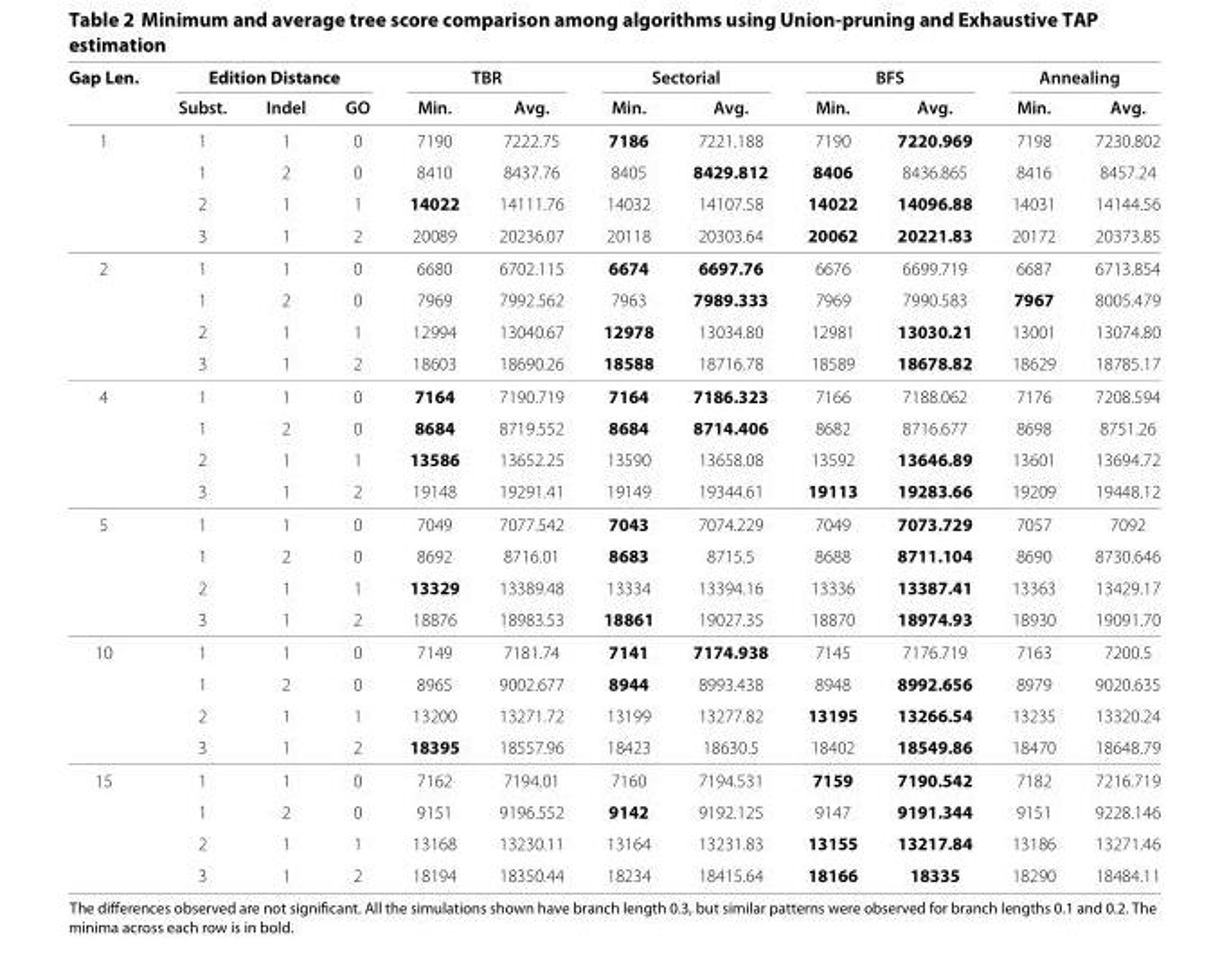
<table><thead><tr><td rowspan="2">Gap Len.</td><td colspan="3">Edition Distance</td><td colspan="2">TBR</td><td colspan="2">Sectorial</td><td colspan="2">BFS</td><td colspan="2">Annealing</td></tr><tr><td>Subst.</td><td>Indel</td><td>GO</td><td>Min.</td><td>Avg.</td><td>Min.</td><td>Avg.</td><td>Min.</td><td>Avg.</td><td>Min.</td><td>Avg.</td></tr></thead><tbody><tr><td rowspan="4">1</td><td>1</td><td>1</td><td>0</td><td>7190</td><td>7222.75</td><td>7186</td><td>7221.188</td><td>7190</td><td>7220.969</td><td>7198</td><td>7230.802</td></tr><tr><td>1</td><td>2</td><td>0</td><td>8410</td><td>8437.76</td><td>8405</td><td>8429.812</td><td>8406</td><td>8436.865</td><td>8416</td><td>8457.24</td></tr><tr><td>2</td><td>1</td><td>1</td><td>14022</td><td>14111.76</td><td>14032</td><td>14107.58</td><td>14022</td><td>14096.88</td><td>14031</td><td>14144.56</td></tr><tr><td>3</td><td>1</td><td>2</td><td>20089</td><td>20236.07</td><td>20118</td><td>20303.64</td><td>20062</td><td>20221.83</td><td>20172</td><td>20373.85</td></tr><tr><td rowspan="4">2</td><td>1</td><td>1</td><td>0</td><td>6680</td><td>6702.115</td><td>6674</td><td>6697.76</td><td>6676</td><td>6699.719</td><td>6687</td><td>6713.854</td></tr><tr><td>1</td><td>2</td><td>0</td><td>7969</td><td>7992.562</td><td>7963</td><td>7989.333</td><td>7969</td><td>7990.583</td><td>7967</td><td>8005.479</td></tr><tr><td>2</td><td>1</td><td>1</td><td>12994</td><td>13040.67</td><td>12978</td><td>13034.80</td><td>12981</td><td>13030.21</td><td>13001</td><td>13074.80</td></tr><tr><td>3</td><td>1</td><td>2</td><td>18603</td><td>18690.26</td><td>18588</td><td>18716.78</td><td>18589</td><td>18678.82</td><td>18629</td><td>18785.17</td></tr><tr><td rowspan="4">4</td><td>1</td><td>1</td><td>0</td><td>7164</td><td>7190.719</td><td>7164</td><td>7186.323</td><td>7166</td><td>7188.062</td><td>7176</td><td>7208.594</td></tr><tr><td>1</td><td>2</td><td>0</td><td>8684</td><td>8719.552</td><td>8684</td><td>8714.406</td><td>8682</td><td>8716.677</td><td>8698</td><td>8751.26</td></tr><tr><td>2</td><td>1</td><td>1</td><td>13586</td><td>13652.25</td><td>13590</td><td>13658.08</td><td>13592</td><td>13646.89</td><td>13601</td><td>13694.72</td></tr><tr><td>3</td><td>1</td><td>2</td><td>19148</td><td>19291.41</td><td>19149</td><td>19344.61</td><td>19113</td><td>19283.66</td><td>19209</td><td>19448.12</td></tr><tr><td rowspan="4">5</td><td>1</td><td>1</td><td>0</td><td>7049</td><td>7077.542</td><td>7043</td><td>7074.229</td><td>7049</td><td>7073.729</td><td>7057</td><td>7092</td></tr><tr><td>1</td><td>2</td><td>0</td><td>8692</td><td>8716.01</td><td>8683</td><td>8715.5</td><td>8688</td><td>8711.104</td><td>8690</td><td>8730.646</td></tr><tr><td>2</td><td>1</td><td>1</td><td>13329</td><td>13389.48</td><td>13334</td><td>13394.16</td><td>13336</td><td>13387.41</td><td>13363</td><td>13429.17</td></tr><tr><td>3</td><td>1</td><td>2</td><td>18876</td><td>18983.53</td><td>18861</td><td>19027.35</td><td>18870</td><td>18974.93</td><td>18930</td><td>19091.70</td></tr><tr><td rowspan="4">10</td><td>1</td><td>1</td><td>0</td><td>7149</td><td>7181.74</td><td>7141</td><td>7174.938</td><td>7145</td><td>7176.719</td><td>7163</td><td>7200.5</td></tr><tr><td>1</td><td>2</td><td>0</td><td>8965</td><td>9002.677</td><td>8944</td><td>8993.438</td><td>8948</td><td>8992.656</td><td>8979</td><td>9020.635</td></tr><tr><td>2</td><td>1</td><td>1</td><td>13200</td><td>13271.72</td><td>13199</td><td>13277.82</td><td>13195</td><td>13266.54</td><td>13235</td><td>13320.24</td></tr><tr><td>3</td><td>1</td><td>2</td><td>18395</td><td>18557.96</td><td>18423</td><td>18630.5</td><td>18402</td><td>18549.86</td><td>18470</td><td>18648.79</td></tr><tr><td rowspan="4">15</td><td>1</td><td>1</td><td>0</td><td>7162</td><td>7194.01</td><td>7160</td><td>7194.531</td><td>7159</td><td>7190.542</td><td>7182</td><td>7216.719</td></tr><tr><td>1</td><td>2</td><td>0</td><td>9151</td><td>9196.552</td><td>9142</td><td>9192.125</td><td>9147</td><td>9191.344</td><td>9151</td><td>9228.146</td></tr><tr><td>2</td><td>1</td><td>1</td><td>13168</td><td>13230.11</td><td>13164</td><td>13231.83</td><td>13155</td><td>13217.84</td><td>13186</td><td>13271.46</td></tr><tr><td>3</td><td>1</td><td>2</td><td>18194</td><td>18350.44</td><td>18234</td><td>18415.64</td><td>18166</td><td>18335</td><td>18290</td><td>18484.11</td></tr></tbody></table>